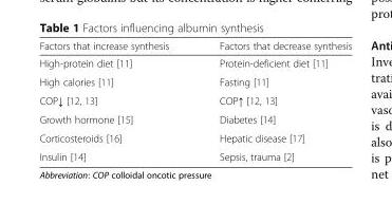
<table><thead><tr><td>Factors that increase synthesis</td><td>Factors that decrease synthesis</td></tr></thead><tbody><tr><td>High-protein diet [11]</td><td>Protein-deficient diet [11]</td></tr><tr><td>High calories [11]</td><td>Fasting [11]</td></tr><tr><td>COP↓ [12, 13]</td><td>COP↑ [12, 13]</td></tr><tr><td>Growth hormone [15]</td><td>Diabetes [14]</td></tr><tr><td>Corticosteroids [16]</td><td>Hepatic disease [17]</td></tr><tr><td>Insulin [14]</td><td>Sepsis, trauma [2]</td></tr></tbody></table>